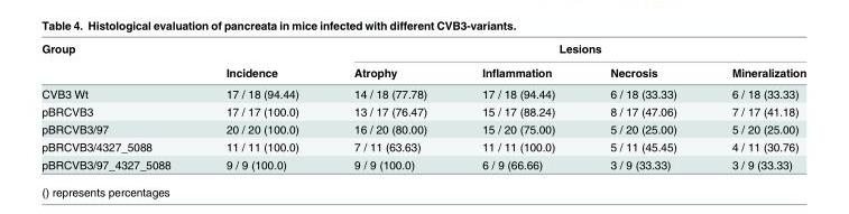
<table><thead><tr><td rowspan="2">Group</td><td rowspan="2">Incidence</td><td colspan="4">Lesions</td></tr><tr><td>Atrophy</td><td>Inflammation</td><td>Necrosis</td><td>Mineralization</td></tr></thead><tbody><tr><td>CVB3 Wt</td><td>17 / 18 (94.44)</td><td>14 / 18 (77.78)</td><td>17 / 18 (94.44)</td><td>6 / 18 (33.33)</td><td>6 / 18 (33.33)</td></tr><tr><td>pBRCVB3</td><td>17 / 17 (100.0)</td><td>13 / 17 (76.47)</td><td>15 / 17 (88.24)</td><td>8 / 17 (47.06)</td><td>7 / 17 (41.18)</td></tr><tr><td>pBRCVB3/97</td><td>20 / 20 (100.0)</td><td>16 / 20 (80.00)</td><td>15 / 20 (75.00)</td><td>5 / 20 (25.00)</td><td>5 / 20 (25.00)</td></tr><tr><td>pBRCVB3/4327_5088</td><td>11 / 11 (100.0)</td><td>7 / 11 (63.63)</td><td>11 / 11 (100.0)</td><td>5 / 11 (45.45)</td><td>4 / 11 (30.76)</td></tr><tr><td>pBRCVB3/97_4327_5088</td><td>9 / 9 (100.0)</td><td>9 / 9 (100.0)</td><td>6 / 9 (66.66)</td><td>3 / 9 (33.33)</td><td>3 / 9 (33.33)</td></tr></tbody></table>